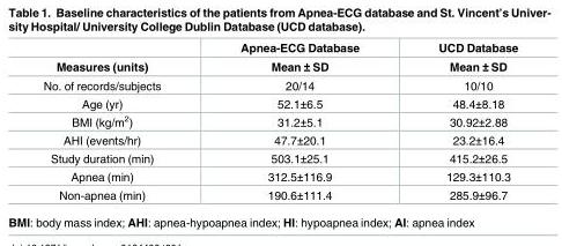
<table><thead><tr><td rowspan="2">Measures (units)</td><td rowspan="2">Apnea-ECG Database Mean ± SD</td><td rowspan="2">UCD Database Mean ± SD</td></tr><tr></tr></thead><tbody><tr><td>No. of records/subjects</td><td>20/14</td><td>10/10</td></tr><tr><td>Age (yr)</td><td>52.1±6.5</td><td>48.4±8.18</td></tr><tr><td>BMI (kg/m<sup>2</sup>)</td><td>31.2±5.1</td><td>30.92±2.88</td></tr><tr><td>AHI (events/hr)</td><td>47.7±20.1</td><td>23.2±16.4</td></tr><tr><td>Study duration (min)</td><td>503.1±25.1</td><td>415.2±26.5</td></tr><tr><td>Apnea (min)</td><td>312.5±116.9</td><td>129.3±110.3</td></tr><tr><td>Non-apnea (min)</td><td>190.6±111.4</td><td>285.9±96.7</td></tr></tbody></table>